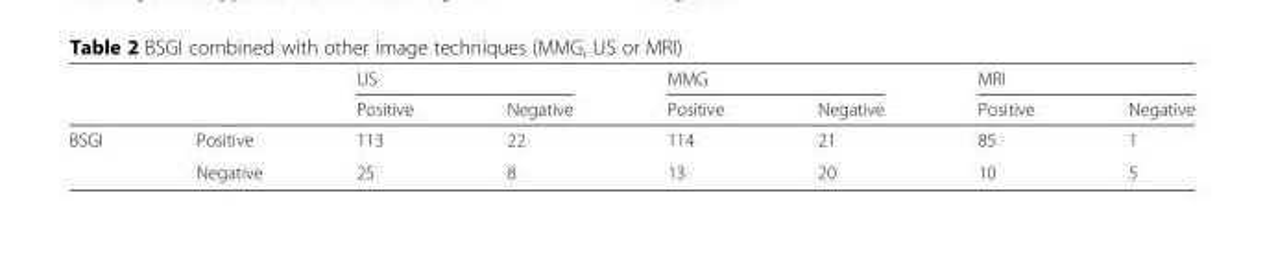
<table><thead><tr><td rowspan="2"></td><td rowspan="2"></td><td colspan="2">US</td><td colspan="2">MMG</td><td colspan="2">MRI</td></tr><tr><td>Positive</td><td>Negative</td><td>Positive</td><td>Negative</td><td>Positive</td><td>Negative</td></tr></thead><tbody><tr><td rowspan="2">BSGI</td><td>Positive</td><td>113</td><td>22</td><td>114</td><td>21</td><td>85</td><td>1</td></tr><tr><td>Negative</td><td>25</td><td>8</td><td>13</td><td>20</td><td>10</td><td>5</td></tr></tbody></table>